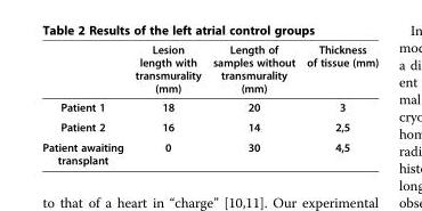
<table><thead><tr><td></td><td>Lesion length with transmurality (mm)</td><td>Length of samples without transmurality (mm)</td><td>Thickness of tissue (mm)</td></tr></thead><tbody><tr><td>Patient 1</td><td>18</td><td>20</td><td>3</td></tr><tr><td>Patient 2</td><td>16</td><td>14</td><td>2,5</td></tr><tr><td>Patient awaiting transplant</td><td>0</td><td>30</td><td>4,5</td></tr></tbody></table>